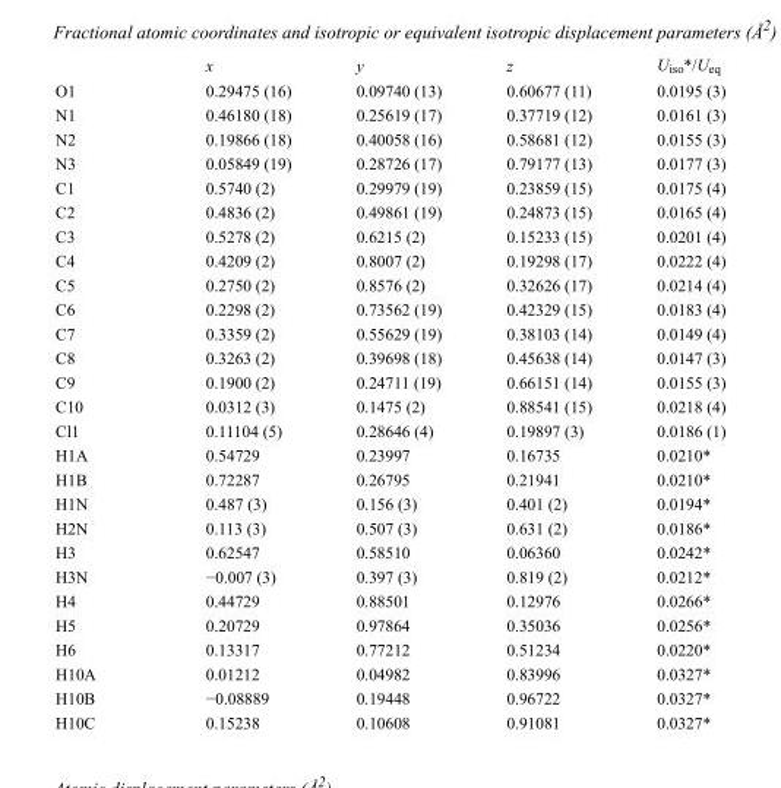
<table><thead><tr><td></td><td>x</td><td>y</td><td>z</td><td>U<sub>iso</sub>*/U<sub>eq</sub></td></tr></thead><tbody><tr><td>O1</td><td>0.29475 (16)</td><td>0.09740 (13)</td><td>0.60677 (11)</td><td>0.0195 (3)</td></tr><tr><td>N1</td><td>0.46180 (18)</td><td>0.25619 (17)</td><td>0.37719 (12)</td><td>0.0161 (3)</td></tr><tr><td>N2</td><td>0.19866 (18)</td><td>0.40058 (16)</td><td>0.58681 (12)</td><td>0.0155 (3)</td></tr><tr><td>N3</td><td>0.05849 (19)</td><td>0.28726 (17)</td><td>0.79177 (13)</td><td>0.0177 (3)</td></tr><tr><td>C1</td><td>0.5740 (2)</td><td>0.29979 (19)</td><td>0.23859 (15)</td><td>0.0175 (4)</td></tr><tr><td>C2</td><td>0.4836 (2)</td><td>0.49861 (19)</td><td>0.24873 (15)</td><td>0.0165 (4)</td></tr><tr><td>C3</td><td>0.5278 (2)</td><td>0.6215 (2)</td><td>0.15233 (15)</td><td>0.0201 (4)</td></tr><tr><td>C4</td><td>0.4209 (2)</td><td>0.8007 (2)</td><td>0.19298 (17)</td><td>0.0222 (4)</td></tr><tr><td>C5</td><td>0.2750 (2)</td><td>0.8576 (2)</td><td>0.32626 (17)</td><td>0.0214 (4)</td></tr><tr><td>C6</td><td>0.2298 (2)</td><td>0.73562 (19)</td><td>0.42329 (15)</td><td>0.0183 (4)</td></tr><tr><td>C7</td><td>0.3359 (2)</td><td>0.55629 (19)</td><td>0.38103 (14)</td><td>0.0149 (4)</td></tr><tr><td>C8</td><td>0.3263 (2)</td><td>0.39698 (18)</td><td>0.45638 (14)</td><td>0.0147 (3)</td></tr><tr><td>C9</td><td>0.1900 (2)</td><td>0.24711 (19)</td><td>0.66151 (14)</td><td>0.0155 (3)</td></tr><tr><td>C10</td><td>0.0312 (3)</td><td>0.1475 (2)</td><td>0.88541 (15)</td><td>0.0218 (4)</td></tr><tr><td>Cl1</td><td>0.11104 (5)</td><td>0.28646 (4)</td><td>0.19897 (3)</td><td>0.0186 (1)</td></tr><tr><td>H1A</td><td>0.54729</td><td>0.23997</td><td>0.16735</td><td>0.0210*</td></tr><tr><td>H1B</td><td>0.72287</td><td>0.26795</td><td>0.21941</td><td>0.0210*</td></tr><tr><td>H1N</td><td>0.487 (3)</td><td>0.156 (3)</td><td>0.401 (2)</td><td>0.0194*</td></tr><tr><td>H2N</td><td>0.113 (3)</td><td>0.507 (3)</td><td>0.631 (2)</td><td>0.0186*</td></tr><tr><td>H3</td><td>0.62547</td><td>0.58510</td><td>0.06360</td><td>0.0242*</td></tr><tr><td>H3N</td><td>−0.007 (3)</td><td>0.397 (3)</td><td>0.819 (2)</td><td>0.0212*</td></tr><tr><td>H4</td><td>0.44729</td><td>0.88501</td><td>0.12976</td><td>0.0266*</td></tr><tr><td>H5</td><td>0.20729</td><td>0.97864</td><td>0.35036</td><td>0.0256*</td></tr><tr><td>H6</td><td>0.13317</td><td>0.77212</td><td>0.51234</td><td>0.0220*</td></tr><tr><td>H10A</td><td>0.01212</td><td>0.04982</td><td>0.83996</td><td>0.0327*</td></tr><tr><td>H10B</td><td>−0.08889</td><td>0.19448</td><td>0.96722</td><td>0.0327*</td></tr><tr><td>H10C</td><td>0.15238</td><td>0.10608</td><td>0.91081</td><td>0.0327*</td></tr></tbody></table>